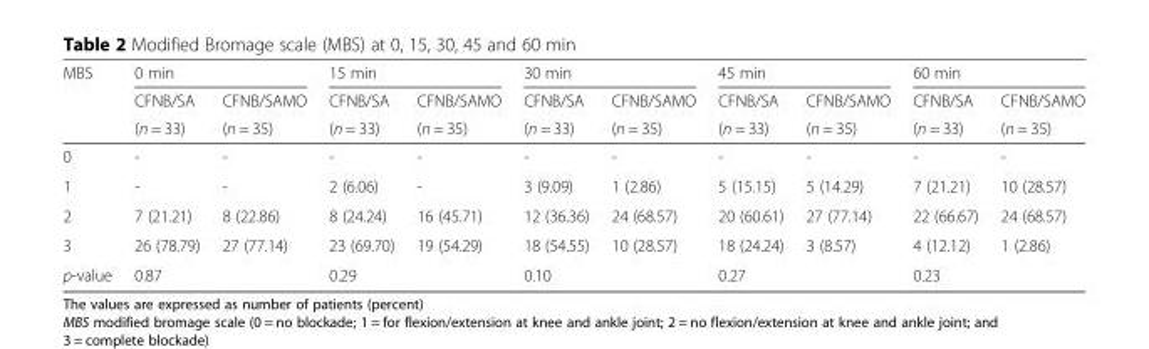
<table><thead><tr><td rowspan="3">MBS</td><td colspan="2">0 min</td><td colspan="2">15 min</td><td colspan="2">30 min</td><td colspan="2">45 min</td><td colspan="2">60 min</td></tr><tr><td rowspan="2">CFNB/SA (n = 33)</td><td rowspan="2">CFNB/SAMO (n = 35)</td><td rowspan="2">CFNB/SA (n = 33)</td><td rowspan="2">CFNB/SAMO (n = 35)</td><td rowspan="2">CFNB/SA (n = 33)</td><td rowspan="2">CFNB/SAMO (n = 35)</td><td rowspan="2">CFNB/SA (n = 33)</td><td rowspan="2">CFNB/SAMO (n = 35)</td><td rowspan="2">CFNB/SA (n = 33)</td><td rowspan="2">CFNB/SAMO (n = 35)</td></tr><tr></tr></thead><tbody><tr><td>0</td><td>-</td><td>-</td><td>-</td><td>-</td><td>-</td><td>-</td><td>-</td><td>-</td><td>-</td><td>-</td></tr><tr><td>1</td><td>-</td><td>-</td><td>2 (6.06)</td><td>-</td><td>3 (9.09)</td><td>1 (2.86)</td><td>5 (15.15)</td><td>5 (14.29)</td><td>7 (21.21)</td><td>10 (28.57)</td></tr><tr><td>2</td><td>7 (21.21)</td><td>8 (22.86)</td><td>8 (24.24)</td><td>16 (45.71)</td><td>12 (36.36)</td><td>24 (68.57)</td><td>20 (60.61)</td><td>27 (77.14)</td><td>22 (66.67)</td><td>24 (68.57)</td></tr><tr><td>3</td><td>26 (78.79)</td><td>27 (77.14)</td><td>23 (69.70)</td><td>19 (54.29)</td><td>18 (54.55)</td><td>10 (28.57)</td><td>18 (24.24)</td><td>3 (8.57)</td><td>4 (12.12)</td><td>1 (2.86)</td></tr><tr><td>p-value</td><td colspan="2">0.87</td><td colspan="2">0.29</td><td colspan="2">0.10</td><td colspan="2">0.27</td><td colspan="2">0.23</td></tr></tbody></table>